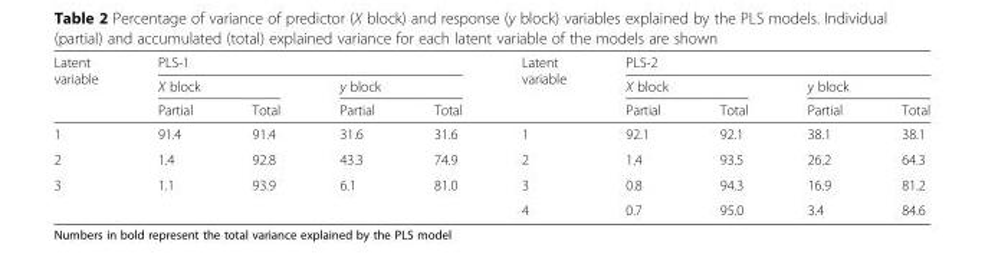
<table><thead><tr><td rowspan="3">Latent variable</td><td colspan="4">PLS-1</td><td rowspan="3">Latent variable</td><td colspan="4">PLS-2</td></tr><tr><td colspan="2">X block</td><td colspan="2">y block</td><td colspan="2">X block</td><td colspan="2">y block</td></tr><tr><td>Partial</td><td>Total</td><td>Partial</td><td>Total</td><td>Partial</td><td>Total</td><td>Partial</td><td>Total</td></tr></thead><tbody><tr><td>1</td><td>91.4</td><td>91.4</td><td>31.6</td><td>31.6</td><td>1</td><td>92.1</td><td>92.1</td><td>38.1</td><td>38.1</td></tr><tr><td>2</td><td>1.4</td><td>92.8</td><td>43.3</td><td>74.9</td><td>2</td><td>1.4</td><td>93.5</td><td>26.2</td><td>64.3</td></tr><tr><td rowspan="2">3</td><td>1.1</td><td>93.9</td><td>6.1</td><td>81.0</td><td>3</td><td>0.8</td><td>94.3</td><td>16.9</td><td>81.2</td></tr><tr><td></td><td></td><td></td><td></td><td>4</td><td>0.7</td><td>95.0</td><td>3.4</td><td>84.6</td></tr></tbody></table>